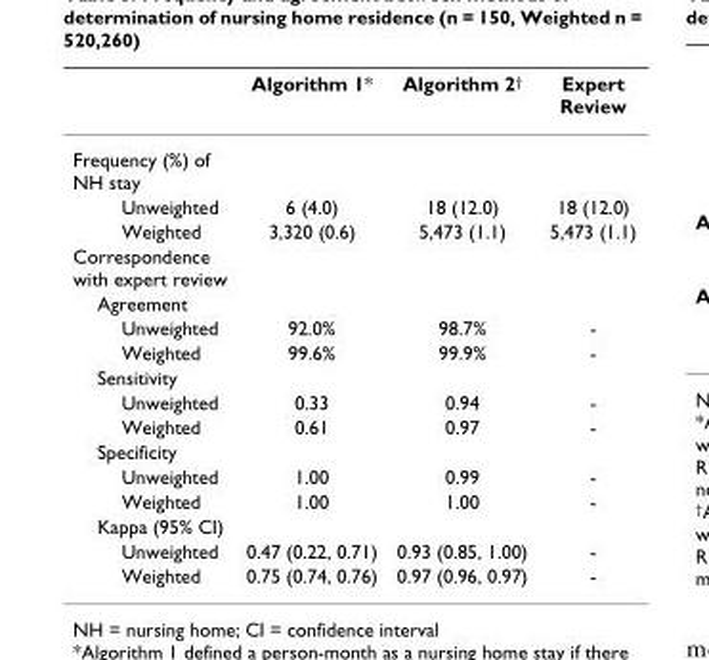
<table><thead><tr><td></td><td>Algorithm 1*</td><td>Algorithm 2<sup>†</sup></td><td>Expert Review</td></tr></thead><tbody><tr><td colspan="4">Frequency (%) of NH stay</td></tr><tr><td>Unweighted</td><td>6 (4.0)</td><td>18 (12.0)</td><td>18 (12.0)</td></tr><tr><td>Weighted</td><td>3,320 (0.6)</td><td>5,473 (1.1)</td><td>5,473 (1.1)</td></tr><tr><td colspan="4">Correspondence with expert review</td></tr><tr><td colspan="4">Agreement</td></tr><tr><td>Unweighted</td><td>92.0%</td><td>98.7%</td><td>-</td></tr><tr><td>Weighted</td><td>99.6%</td><td>99.9%</td><td>-</td></tr><tr><td colspan="4">Sensitivity</td></tr><tr><td>Unweighted</td><td>0.33</td><td>0.94</td><td>-</td></tr><tr><td>Weighted</td><td>0.61</td><td>0.97</td><td>-</td></tr><tr><td colspan="4">Specificity</td></tr><tr><td>Unweighted</td><td>1.00</td><td>0.99</td><td>-</td></tr><tr><td>Weighted</td><td>1.00</td><td>1.00</td><td>-</td></tr><tr><td colspan="4">Kappa (95% CI)</td></tr><tr><td>Unweighted</td><td>0.47 (0.22, 0.71)</td><td>0.93 (0.85, 1.00)</td><td>-</td></tr><tr><td>Weighted</td><td>0.75 (0.74, 0.76)</td><td>0.97 (0.96, 0.97)</td><td>-</td></tr></tbody></table>